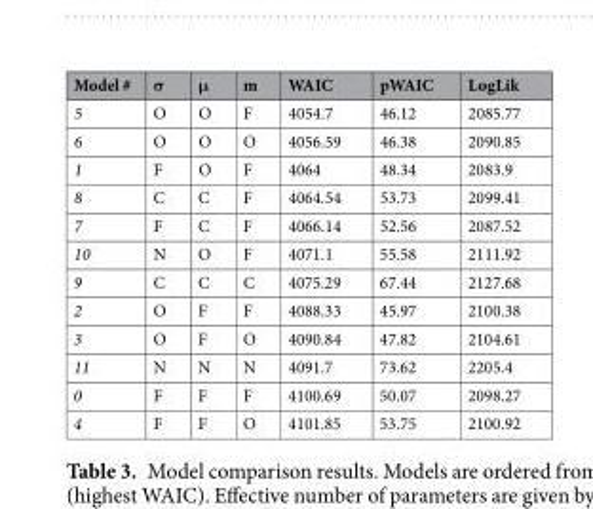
<table><thead><tr><td>Model #</td><td>σ</td><td>μ</td><td>m</td><td>WAIC</td><td>pWAIC</td><td>LogLik</td></tr></thead><tbody><tr><td>5</td><td>O</td><td>O</td><td>F</td><td>4054.7</td><td>46.12</td><td>2085.77</td></tr><tr><td>6</td><td>O</td><td>O</td><td>O</td><td>4056.59</td><td>46.38</td><td>2090.85</td></tr><tr><td>1</td><td>F</td><td>O</td><td>F</td><td>4064</td><td>48.34</td><td>2083.9</td></tr><tr><td>8</td><td>C</td><td>C</td><td>F</td><td>4064.54</td><td>53.73</td><td>2099.41</td></tr><tr><td>7</td><td>F</td><td>C</td><td>F</td><td>4066.14</td><td>52.56</td><td>2087.52</td></tr><tr><td>10</td><td>N</td><td>O</td><td>F</td><td>4071.1</td><td>55.58</td><td>2111.92</td></tr><tr><td>9</td><td>C</td><td>C</td><td>C</td><td>4075.29</td><td>67.44</td><td>2127.68</td></tr><tr><td>2</td><td>O</td><td>F</td><td>F</td><td>4088.33</td><td>45.97</td><td>2100.38</td></tr><tr><td>3</td><td>O</td><td>F</td><td>O</td><td>4090.84</td><td>47.82</td><td>2104.61</td></tr><tr><td>11</td><td>N</td><td>N</td><td>N</td><td>4091.7</td><td>73.62</td><td>2205.4</td></tr><tr><td>0</td><td>F</td><td>F</td><td>F</td><td>4100.69</td><td>50.07</td><td>2098.27</td></tr><tr><td>4</td><td>F</td><td>F</td><td>O</td><td>4101.85</td><td>53.75</td><td>2100.92</td></tr></tbody></table>